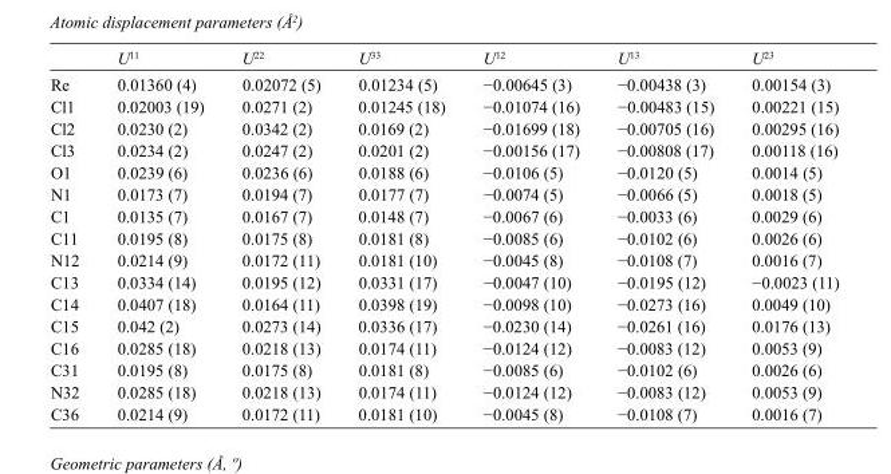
<table><thead><tr><td></td><td>U<sup>11</sup></td><td>U<sup>22</sup></td><td>U<sup>33</sup></td><td>U<sup>12</sup></td><td>U<sup>13</sup></td><td>U<sup>23</sup></td></tr></thead><tbody><tr><td>Re</td><td>0.01360 (4)</td><td>0.02072 (5)</td><td>0.01234 (5)</td><td>−0.00645 (3)</td><td>−0.00438 (3)</td><td>0.00154 (3)</td></tr><tr><td>Cl1</td><td>0.02003 (19)</td><td>0.0271 (2)</td><td>0.01245 (18)</td><td>−0.01074 (16)</td><td>−0.00483 (15)</td><td>0.00221 (15)</td></tr><tr><td>Cl2</td><td>0.0230 (2)</td><td>0.0342 (2)</td><td>0.0169 (2)</td><td>−0.01699 (18)</td><td>−0.00705 (16)</td><td>0.00295 (16)</td></tr><tr><td>Cl3</td><td>0.0234 (2)</td><td>0.0247 (2)</td><td>0.0201 (2)</td><td>−0.00156 (17)</td><td>−0.00808 (17)</td><td>0.00118 (16)</td></tr><tr><td>O1</td><td>0.0239 (6)</td><td>0.0236 (6)</td><td>0.0188 (6)</td><td>−0.0106 (5)</td><td>−0.0120 (5)</td><td>0.0014 (5)</td></tr><tr><td>N1</td><td>0.0173 (7)</td><td>0.0194 (7)</td><td>0.0177 (7)</td><td>−0.0074 (5)</td><td>−0.0066 (5)</td><td>0.0018 (5)</td></tr><tr><td>C1</td><td>0.0135 (7)</td><td>0.0167 (7)</td><td>0.0148 (7)</td><td>−0.0067 (6)</td><td>−0.0033 (6)</td><td>0.0029 (6)</td></tr><tr><td>C11</td><td>0.0195 (8)</td><td>0.0175 (8)</td><td>0.0181 (8)</td><td>−0.0085 (6)</td><td>−0.0102 (6)</td><td>0.0026 (6)</td></tr><tr><td>N12</td><td>0.0214 (9)</td><td>0.0172 (11)</td><td>0.0181 (10)</td><td>−0.0045 (8)</td><td>−0.0108 (7)</td><td>0.0016 (7)</td></tr><tr><td>C13</td><td>0.0334 (14)</td><td>0.0195 (12)</td><td>0.0331 (17)</td><td>−0.0047 (10)</td><td>−0.0195 (12)</td><td>−0.0023 (11)</td></tr><tr><td>C14</td><td>0.0407 (18)</td><td>0.0164 (11)</td><td>0.0398 (19)</td><td>−0.0098 (10)</td><td>−0.0273 (16)</td><td>0.0049 (10)</td></tr><tr><td>C15</td><td>0.042 (2)</td><td>0.0273 (14)</td><td>0.0336 (17)</td><td>−0.0230 (14)</td><td>−0.0261 (16)</td><td>0.0176 (13)</td></tr><tr><td>C16</td><td>0.0285 (18)</td><td>0.0218 (13)</td><td>0.0174 (11)</td><td>−0.0124 (12)</td><td>−0.0083 (12)</td><td>0.0053 (9)</td></tr><tr><td>C31</td><td>0.0195 (8)</td><td>0.0175 (8)</td><td>0.0181 (8)</td><td>−0.0085 (6)</td><td>−0.0102 (6)</td><td>0.0026 (6)</td></tr><tr><td>N32</td><td>0.0285 (18)</td><td>0.0218 (13)</td><td>0.0174 (11)</td><td>−0.0124 (12)</td><td>−0.0083 (12)</td><td>0.0053 (9)</td></tr><tr><td>C36</td><td>0.0214 (9)</td><td>0.0172 (11)</td><td>0.0181 (10)</td><td>−0.0045 (8)</td><td>−0.0108 (7)</td><td>0.0016 (7)</td></tr></tbody></table>